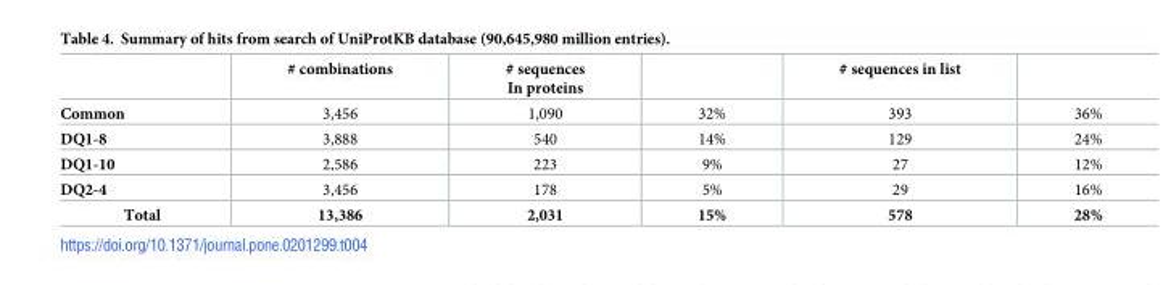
<table><thead><tr><td></td><td># combinations</td><td># sequences In proteins</td><td></td><td># sequences in list</td><td></td></tr></thead><tbody><tr><td>Common</td><td>3,456</td><td>1,090</td><td>32%</td><td>393</td><td>36%</td></tr><tr><td>DQ1-8</td><td>3,888</td><td>540</td><td>14%</td><td>129</td><td>24%</td></tr><tr><td>DQ1-10</td><td>2,586</td><td>223</td><td>9%</td><td>27</td><td>12%</td></tr><tr><td>DQ2-4</td><td>3,456</td><td>178</td><td>5%</td><td>29</td><td>16%</td></tr><tr><td>Total</td><td>13,386</td><td>2,031</td><td>15%</td><td>578</td><td>28%</td></tr></tbody></table>